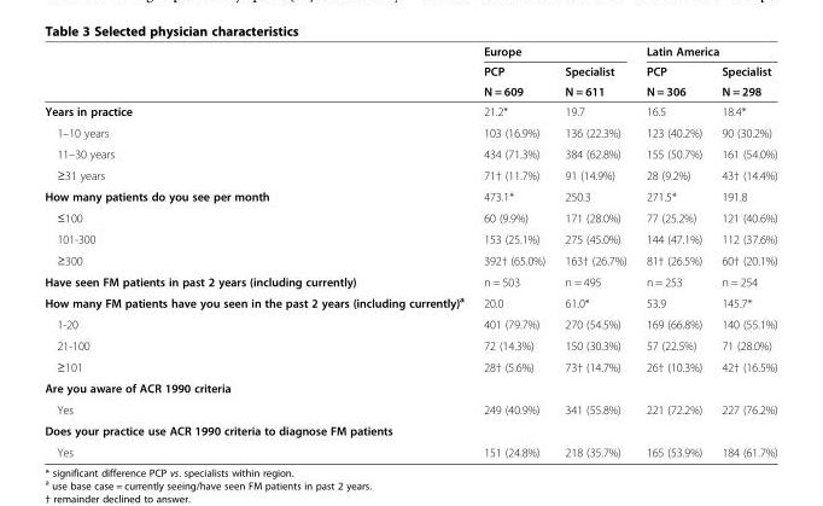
<table><thead><tr><td rowspan="3"></td><td colspan="2">Europe</td><td colspan="2">Latin America</td></tr><tr><td rowspan="2">PCP N = 609</td><td rowspan="2">Specialist N = 611</td><td rowspan="2">PCP N = 306</td><td rowspan="2">Specialist N = 298</td></tr><tr></tr></thead><tbody><tr><td>Years in practice</td><td>21.2*</td><td>19.7</td><td>16.5</td><td>18.4*</td></tr><tr><td>1–10 years</td><td>103 (16.9%)</td><td>136 (22.3%)</td><td>123 (40.2%)</td><td>90 (30.2%)</td></tr><tr><td>11–30 years</td><td>434 (71.3%)</td><td>384 (62.8%)</td><td>155 (50.7%)</td><td>161 (54.0%)</td></tr><tr><td>≥31 years</td><td>71† (11.7%)</td><td>91 (14.9%)</td><td>28 (9.2%)</td><td>43† (14.4%)</td></tr><tr><td>How many patients do you see per month</td><td>473.1*</td><td>250.3</td><td>271.5*</td><td>191.8</td></tr><tr><td>≤100</td><td>60 (9.9%)</td><td>171 (28.0%)</td><td>77 (25.2%)</td><td>121 (40.6%)</td></tr><tr><td>101-300</td><td>153 (25.1%)</td><td>275 (45.0%)</td><td>144 (47.1%)</td><td>112 (37.6%)</td></tr><tr><td>≥300</td><td>392† (65.0%)</td><td>163† (26.7%)</td><td>81† (26.5%)</td><td>60† (20.1%)</td></tr><tr><td>Have seen FM patients in past 2 years (including currently)</td><td>n = 503</td><td>n = 495</td><td>n = 253</td><td>n = 254</td></tr><tr><td>How many FM patients have you seen in the past 2 years (including currently)<sup>a</sup></td><td>20.0</td><td>61.0*</td><td>53.9</td><td>145.7*</td></tr><tr><td>1-20</td><td>401 (79.7%)</td><td>270 (54.5%)</td><td>169 (66.8%)</td><td>140 (55.1%)</td></tr><tr><td>21-100</td><td>72 (14.3%)</td><td>150 (30.3%)</td><td>57 (22.5%)</td><td>71 (28.0%)</td></tr><tr><td>≥101</td><td>28† (5.6%)</td><td>73† (14.7%)</td><td>26† (10.3%)</td><td>42† (16.5%)</td></tr><tr><td colspan="5">Are you aware of ACR 1990 criteria</td></tr><tr><td>Yes</td><td>249 (40.9%)</td><td>341 (55.8%)</td><td>221 (72.2%)</td><td>227 (76.2%)</td></tr><tr><td colspan="5">Does your practice use ACR 1990 criteria to diagnose FM patients</td></tr><tr><td>Yes</td><td>151 (24.8%)</td><td>218 (35.7%)</td><td>165 (53.9%)</td><td>184 (61.7%)</td></tr></tbody></table>